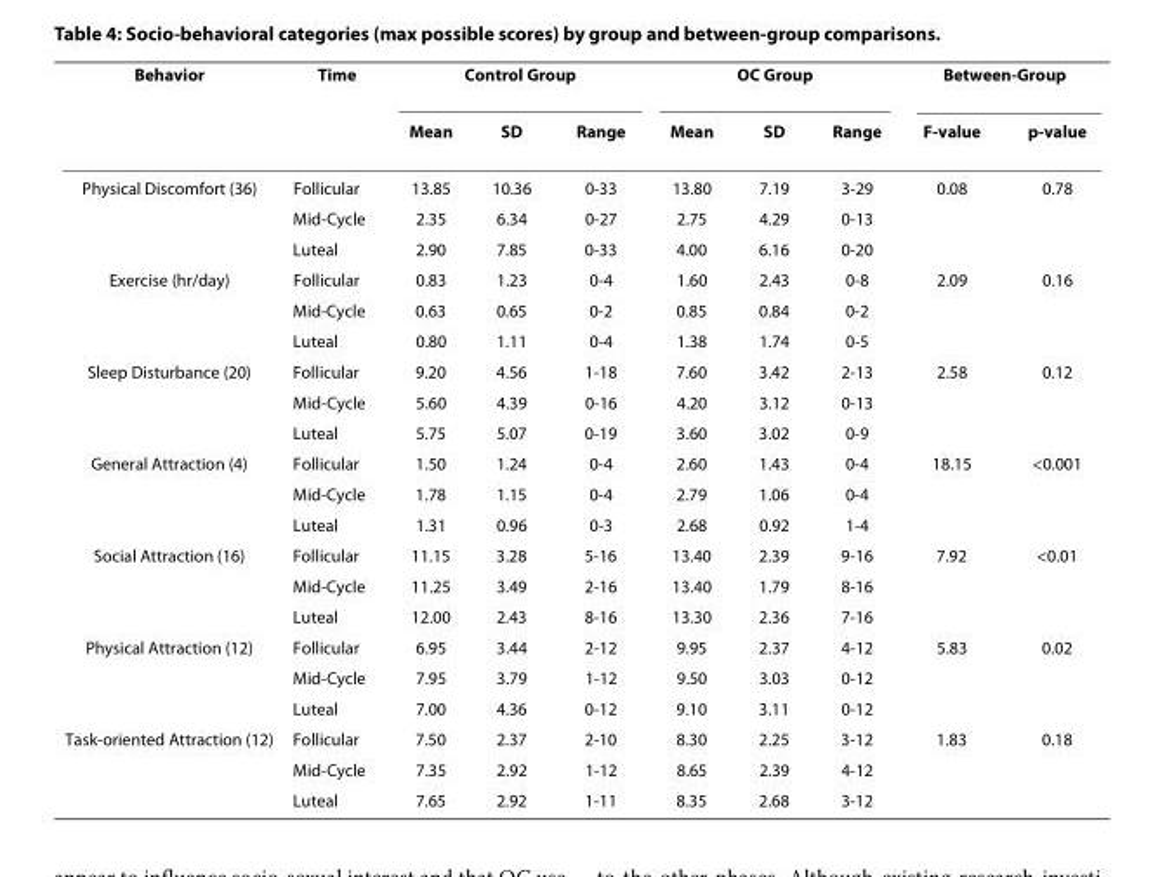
<table><thead><tr><td rowspan="2">Behavior</td><td rowspan="2">Time</td><td colspan="3">Control Group</td><td colspan="3">OC Group</td><td colspan="2">Between-Group</td></tr><tr><td>Mean</td><td>SD</td><td>Range</td><td>Mean</td><td>SD</td><td>Range</td><td>F-value</td><td>p-value</td></tr></thead><tbody><tr><td rowspan="3">Physical Discomfort (36)</td><td>Follicular</td><td>13.85</td><td>10.36</td><td>0-33</td><td>13.80</td><td>7.19</td><td>3-29</td><td>0.08</td><td>0.78</td></tr><tr><td>Mid-Cycle</td><td>2.35</td><td>6.34</td><td>0-27</td><td>2.75</td><td>4.29</td><td>0-13</td><td></td><td></td></tr><tr><td>Luteal</td><td>2.90</td><td>7.85</td><td>0-33</td><td>4.00</td><td>6.16</td><td>0-20</td><td></td><td></td></tr><tr><td rowspan="3">Exercise (hr/day)</td><td>Follicular</td><td>0.83</td><td>1.23</td><td>0-4</td><td>1.60</td><td>2.43</td><td>0-8</td><td>2.09</td><td>0.16</td></tr><tr><td>Mid-Cycle</td><td>0.63</td><td>0.65</td><td>0-2</td><td>0.85</td><td>0.84</td><td>0-2</td><td></td><td></td></tr><tr><td>Luteal</td><td>0.80</td><td>1.11</td><td>0-4</td><td>1.38</td><td>1.74</td><td>0-5</td><td></td><td></td></tr><tr><td rowspan="3">Sleep Disturbance (20)</td><td>Follicular</td><td>9.20</td><td>4.56</td><td>1-18</td><td>7.60</td><td>3.42</td><td>2-13</td><td>2.58</td><td>0.12</td></tr><tr><td>Mid-Cycle</td><td>5.60</td><td>4.39</td><td>0-16</td><td>4.20</td><td>3.12</td><td>0-13</td><td></td><td></td></tr><tr><td>Luteal</td><td>5.75</td><td>5.07</td><td>0-19</td><td>3.60</td><td>3.02</td><td>0-9</td><td></td><td></td></tr><tr><td rowspan="3">General Attraction (4)</td><td>Follicular</td><td>1.50</td><td>1.24</td><td>0-4</td><td>2.60</td><td>1.43</td><td>0-4</td><td>18.15</td><td>&lt;0.001</td></tr><tr><td>Mid-Cycle</td><td>1.78</td><td>1.15</td><td>0-4</td><td>2.79</td><td>1.06</td><td>0-4</td><td></td><td></td></tr><tr><td>Luteal</td><td>1.31</td><td>0.96</td><td>0-3</td><td>2.68</td><td>0.92</td><td>1-4</td><td></td><td></td></tr><tr><td rowspan="3">Social Attraction (16)</td><td>Follicular</td><td>11.15</td><td>3.28</td><td>5-16</td><td>13.40</td><td>2.39</td><td>9-16</td><td>7.92</td><td>&lt;0.01</td></tr><tr><td>Mid-Cycle</td><td>11.25</td><td>3.49</td><td>2-16</td><td>13.40</td><td>1.79</td><td>8-16</td><td></td><td></td></tr><tr><td>Luteal</td><td>12.00</td><td>2.43</td><td>8-16</td><td>13.30</td><td>2.36</td><td>7-16</td><td></td><td></td></tr><tr><td rowspan="3">Physical Attraction (12)</td><td>Follicular</td><td>6.95</td><td>3.44</td><td>2-12</td><td>9.95</td><td>2.37</td><td>4-12</td><td>5.83</td><td>0.02</td></tr><tr><td>Mid-Cycle</td><td>7.95</td><td>3.79</td><td>1-12</td><td>9.50</td><td>3.03</td><td>0-12</td><td></td><td></td></tr><tr><td>Luteal</td><td>7.00</td><td>4.36</td><td>0-12</td><td>9.10</td><td>3.11</td><td>0-12</td><td></td><td></td></tr><tr><td rowspan="3">Task-oriented Attraction (12)</td><td>Follicular</td><td>7.50</td><td>2.37</td><td>2-10</td><td>8.30</td><td>2.25</td><td>3-12</td><td>1.83</td><td>0.18</td></tr><tr><td>Mid-Cycle</td><td>7.35</td><td>2.92</td><td>1-12</td><td>8.65</td><td>2.39</td><td>4-12</td><td></td><td></td></tr><tr><td>Luteal</td><td>7.65</td><td>2.92</td><td>1-11</td><td>8.35</td><td>2.68</td><td>3-12</td><td></td><td></td></tr></tbody></table>